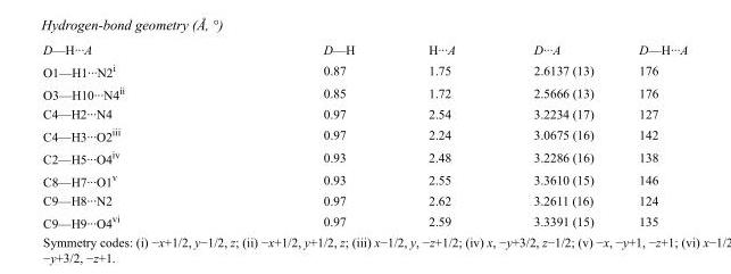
<table><tbody><tr><td>D—H···A</td><td>D—H</td><td>H···A</td><td>D···A</td><td>D—H···A</td></tr><tr><td>O1—H1···N2<sup>i</sup></td><td>0.87</td><td>1.75</td><td>2.6137 (13)</td><td>176</td></tr><tr><td>O3—H10···N4<sup>ii</sup></td><td>0.85</td><td>1.72</td><td>2.5666 (13)</td><td>176</td></tr><tr><td>C4—H2···N4</td><td>0.97</td><td>2.54</td><td>3.2234 (17)</td><td>127</td></tr><tr><td>C4—H3···O2<sup>iii</sup></td><td>0.97</td><td>2.24</td><td>3.0675 (16)</td><td>142</td></tr><tr><td>C2—H5···O4<sup>iv</sup></td><td>0.93</td><td>2.48</td><td>3.2286 (16)</td><td>138</td></tr><tr><td>C8—H7···O1<sup>v</sup></td><td>0.93</td><td>2.55</td><td>3.3610 (15)</td><td>146</td></tr><tr><td>C9—H8···N2</td><td>0.97</td><td>2.62</td><td>3.2611 (16)</td><td>124</td></tr><tr><td>C9—H9···O4<sup>vi</sup></td><td>0.97</td><td>2.59</td><td>3.3391 (15)</td><td>135</td></tr></tbody></table>